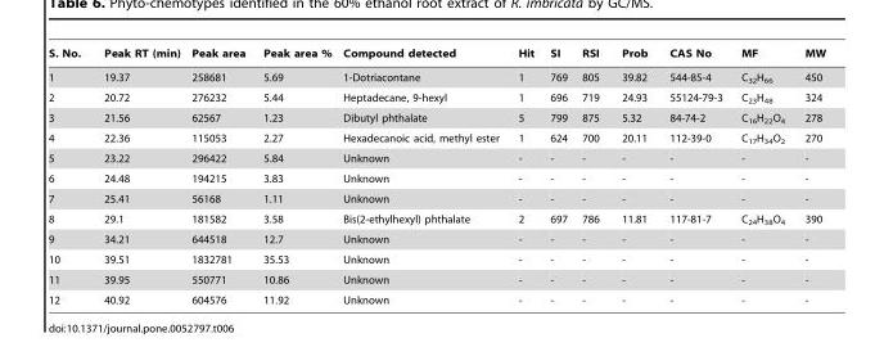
<table><thead><tr><td>S. No.</td><td>Peak RT (min)</td><td>Peak area</td><td>Peak area %</td><td>Compound detected</td><td>Hit</td><td>SI</td><td>RSI</td><td>Prob</td><td>CAS No</td><td>MF</td><td>MW</td></tr></thead><tbody><tr><td>1</td><td>19.37</td><td>258681</td><td>5.69</td><td>1-Dotriacontane</td><td>1</td><td>769</td><td>805</td><td>39.82</td><td>544-85-4</td><td>C<sub>32</sub>H<sub>66</sub></td><td>450</td></tr><tr><td>2</td><td>20.72</td><td>276232</td><td>5.44</td><td>Heptadecane, 9-hexyl</td><td>1</td><td>696</td><td>719</td><td>24.93</td><td>55124-79-3</td><td>C<sub>23</sub>H<sub>48</sub></td><td>324</td></tr><tr><td>3</td><td>21.56</td><td>62567</td><td>1.23</td><td>Dibutyl phthalate</td><td>5</td><td>799</td><td>875</td><td>5.32</td><td>84-74-2</td><td>C<sub>16</sub>H<sub>22</sub>O<sub>4</sub></td><td>278</td></tr><tr><td>4</td><td>22.36</td><td>115053</td><td>2.27</td><td>Hexadecanoic acid, methyl ester</td><td>1</td><td>624</td><td>700</td><td>20.11</td><td>112-39-0</td><td>C<sub>17</sub>H<sub>34</sub>O<sub>2</sub></td><td>270</td></tr><tr><td>5</td><td>23.22</td><td>296422</td><td>5.84</td><td>Unknown</td><td>-</td><td>-</td><td>-</td><td>-</td><td>-</td><td>-</td><td>-</td></tr><tr><td>6</td><td>24.48</td><td>194215</td><td>3.83</td><td>Unknown</td><td>-</td><td>-</td><td>-</td><td>-</td><td>-</td><td>-</td><td>-</td></tr><tr><td>7</td><td>25.41</td><td>56168</td><td>1.11</td><td>Unknown</td><td>-</td><td>-</td><td>-</td><td>-</td><td>-</td><td>-</td><td>-</td></tr><tr><td>8</td><td>29.1</td><td>181582</td><td>3.58</td><td>Bis(2-ethylhexyl) phthalate</td><td>2</td><td>697</td><td>786</td><td>11.81</td><td>117-81-7</td><td>C<sub>24</sub>H<sub>38</sub>O<sub>4</sub></td><td>390</td></tr><tr><td>9</td><td>34.21</td><td>644518</td><td>12.7</td><td>Unknown</td><td>-</td><td>-</td><td>-</td><td>-</td><td>-</td><td>-</td><td>-</td></tr><tr><td>10</td><td>39.51</td><td>1832781</td><td>35.53</td><td>Unknown</td><td>-</td><td>-</td><td>-</td><td>-</td><td>-</td><td>-</td><td>-</td></tr><tr><td>11</td><td>39.95</td><td>550771</td><td>10.86</td><td>Unknown</td><td>-</td><td>-</td><td>-</td><td>-</td><td>-</td><td>-</td><td>-</td></tr><tr><td>12</td><td>40.92</td><td>604576</td><td>11.92</td><td>Unknown</td><td>-</td><td>-</td><td>-</td><td>-</td><td>-</td><td>-</td><td>-</td></tr></tbody></table>